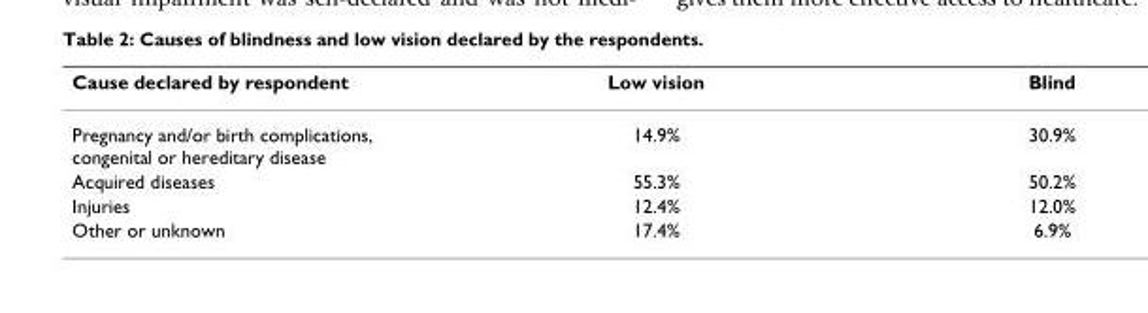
<table><thead><tr><td>Cause declared by respondent</td><td>Low vision</td><td>Blind</td></tr></thead><tbody><tr><td>Pregnancy and/or birth complications, congenital or hereditary disease</td><td>14.9%</td><td>30.9%</td></tr><tr><td>Acquired diseases</td><td>55.3%</td><td>50.2%</td></tr><tr><td>Injuries</td><td>12.4%</td><td>12.0%</td></tr><tr><td>Other or unknown</td><td>17.4%</td><td>6.9%</td></tr></tbody></table>